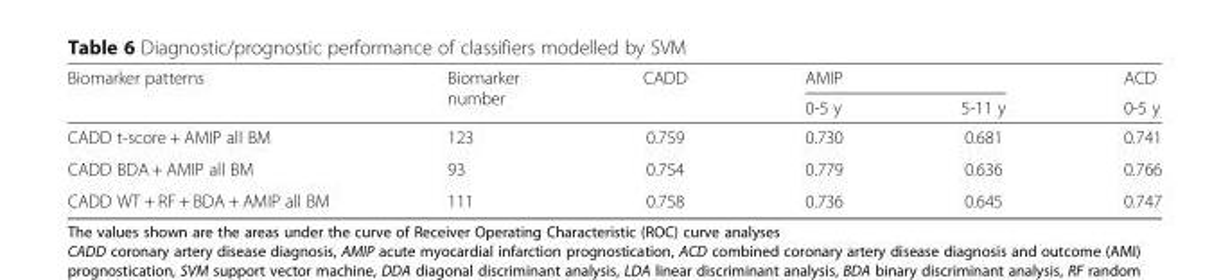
<table><thead><tr><td rowspan="2">Biomarker patterns</td><td rowspan="2">Biomarker number</td><td rowspan="2">CADD</td><td colspan="2">AMIP</td><td rowspan="2">ACD 0-5 y</td></tr><tr><td>0-5 y</td><td>5-11 y</td></tr></thead><tbody><tr><td>CADD t-score + AMIP all BM</td><td>123</td><td>0.759</td><td>0.730</td><td>0.681</td><td>0.741</td></tr><tr><td>CADD BDA + AMIP all BM</td><td>93</td><td>0.754</td><td>0.779</td><td>0.636</td><td>0.766</td></tr><tr><td>CADD WT + RF + BDA + AMIP all BM</td><td>111</td><td>0.758</td><td>0.736</td><td>0.645</td><td>0.747</td></tr></tbody></table>